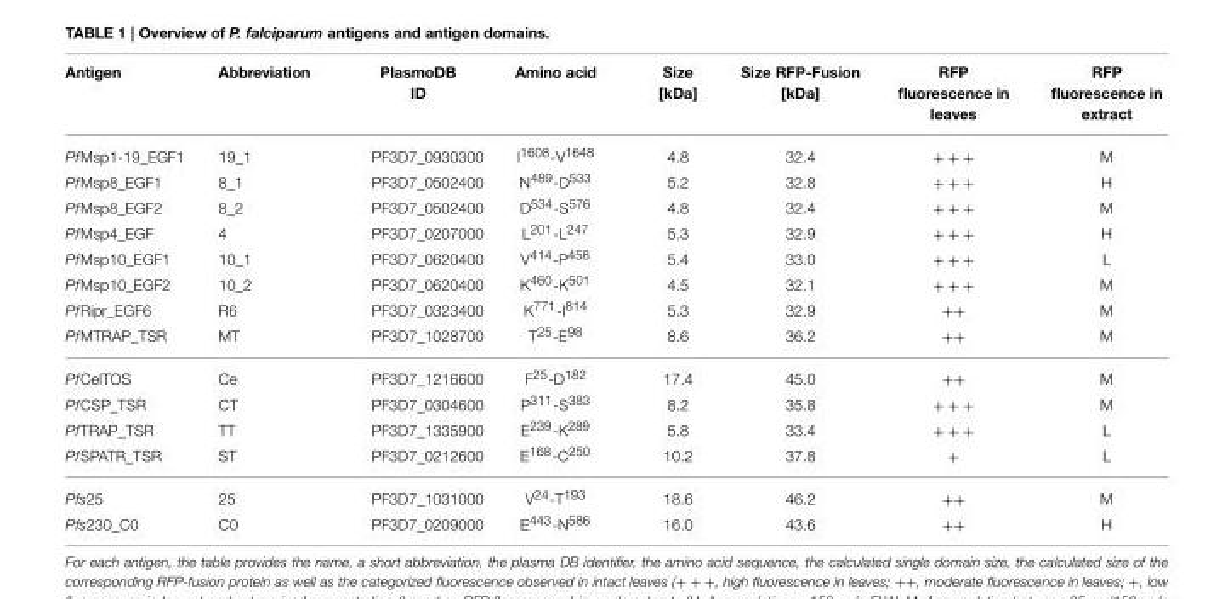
<table><thead><tr><td>Antigen</td><td>Abbreviation</td><td>PlasmoDB ID</td><td>Amino acid</td><td>Size [kDa]</td><td>Size RFP-Fusion [kDa]</td><td>RFP fluorescence in leaves</td><td>RFP fluorescence in extract</td></tr></thead><tbody><tr><td>PfMsp1-19_EGF1</td><td>19_1</td><td>PF3D7_0930300</td><td>I<sup>1608</sup>-V<sup>1648</sup></td><td>4.8</td><td>32.4</td><td>+ + +</td><td>M</td></tr><tr><td>PfMsp8_EGF1</td><td>8_1</td><td>PF3D7_0502400</td><td>N<sup>489</sup>-D<sup>533</sup></td><td>5.2</td><td>32.8</td><td>+ + +</td><td>H</td></tr><tr><td>PfMsp8_EGF2</td><td>8_2</td><td>PF3D7_0502400</td><td>D<sup>534</sup>-S<sup>576</sup></td><td>4.8</td><td>32.4</td><td>+ + +</td><td>M</td></tr><tr><td>PfMsp4_EGF</td><td>4</td><td>PF3D7_0207000</td><td>L<sup>201</sup>-L<sup>247</sup></td><td>5.3</td><td>32.9</td><td>+ + +</td><td>H</td></tr><tr><td>PfMsp10_EGF1</td><td>10_1</td><td>PF3D7_0620400</td><td>V<sup>414</sup>-P<sup>458</sup></td><td>5.4</td><td>33.0</td><td>+ + +</td><td>L</td></tr><tr><td>PfMsp10_EGF2</td><td>10_2</td><td>PF3D7_0620400</td><td>K<sup>460</sup>-K<sup>501</sup></td><td>4.5</td><td>32.1</td><td>+ + +</td><td>M</td></tr><tr><td>PfRipr_EGF6</td><td>R6</td><td>PF3D7_0323400</td><td>K<sup>771</sup>-I<sup>814</sup></td><td>5.3</td><td>32.9</td><td>++</td><td>M</td></tr><tr><td>PfMTRAP_TSR</td><td>MT</td><td>PF3D7_1028700</td><td>T<sup>25</sup>-E<sup>98</sup></td><td>8.6</td><td>36.2</td><td>++</td><td>M</td></tr><tr><td>PfCelTOS</td><td>Ce</td><td>PF3D7_1216600</td><td>F<sup>25</sup>-D<sup>182</sup></td><td>17.4</td><td>45.0</td><td>++</td><td>M</td></tr><tr><td>PfCSP_TSR</td><td>CT</td><td>PF3D7_0304600</td><td>P<sup>311</sup>-S<sup>383</sup></td><td>8.2</td><td>35.8</td><td>+ + +</td><td>M</td></tr><tr><td>PfTRAP_TSR</td><td>TT</td><td>PF3D7_1335900</td><td>E<sup>239</sup>-K<sup>289</sup></td><td>5.8</td><td>33.4</td><td>+ + +</td><td>L</td></tr><tr><td>PfSPATR_TSR</td><td>ST</td><td>PF3D7_0212600</td><td>E<sup>168</sup>-C<sup>250</sup></td><td>10.2</td><td>37.8</td><td>+</td><td>L</td></tr><tr><td>Pfs25</td><td>25</td><td>PF3D7_1031000</td><td>V<sup>24</sup>-T<sup>193</sup></td><td>18.6</td><td>46.2</td><td>++</td><td>M</td></tr><tr><td>Pfs230_C0</td><td>C0</td><td>PF3D7_0209000</td><td>E<sup>443</sup>-N<sup>586</sup></td><td>16.0</td><td>43.6</td><td>++</td><td>H</td></tr></tbody></table>